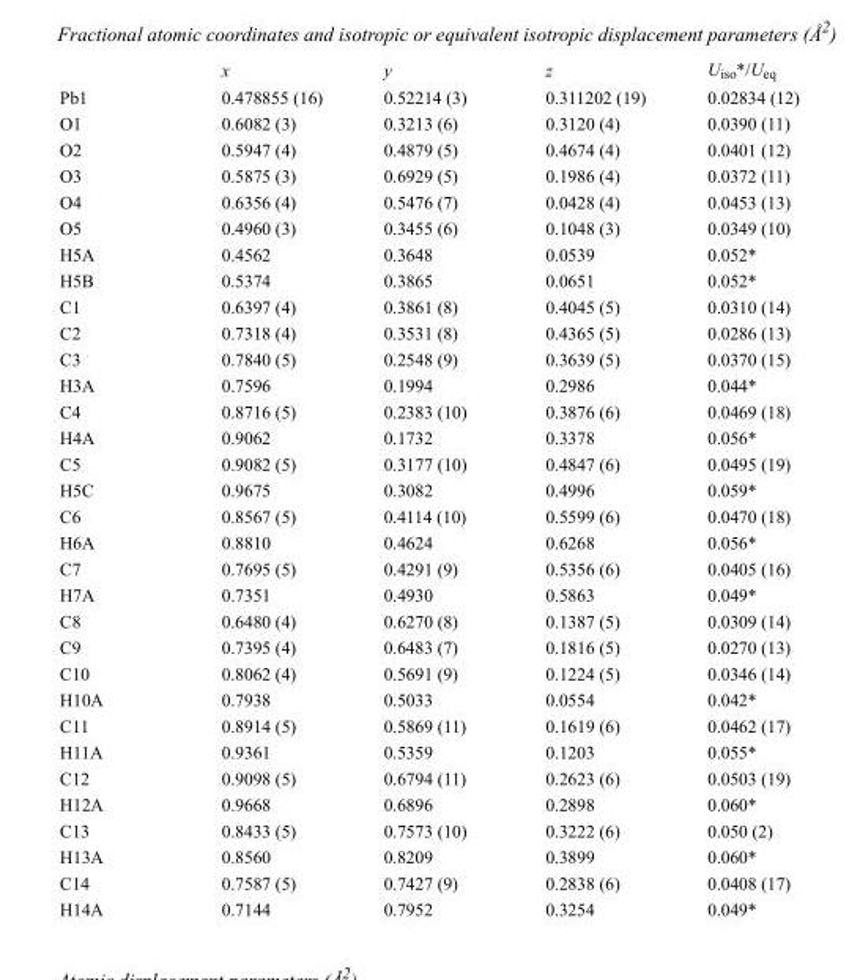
<table><thead><tr><td></td><td>x</td><td>y</td><td>z</td><td>U<sub>iso</sub>*/U<sub>eq</sub></td></tr></thead><tbody><tr><td>Pb1</td><td>0.478855 (16)</td><td>0.52214 (3)</td><td>0.311202 (19)</td><td>0.02834 (12)</td></tr><tr><td>O1</td><td>0.6082 (3)</td><td>0.3213 (6)</td><td>0.3120 (4)</td><td>0.0390 (11)</td></tr><tr><td>O2</td><td>0.5947 (4)</td><td>0.4879 (5)</td><td>0.4674 (4)</td><td>0.0401 (12)</td></tr><tr><td>O3</td><td>0.5875 (3)</td><td>0.6929 (5)</td><td>0.1986 (4)</td><td>0.0372 (11)</td></tr><tr><td>O4</td><td>0.6356 (4)</td><td>0.5476 (7)</td><td>0.0428 (4)</td><td>0.0453 (13)</td></tr><tr><td>O5</td><td>0.4960 (3)</td><td>0.3455 (6)</td><td>0.1048 (3)</td><td>0.0349 (10)</td></tr><tr><td>H5A</td><td>0.4562</td><td>0.3648</td><td>0.0539</td><td>0.052*</td></tr><tr><td>H5B</td><td>0.5374</td><td>0.3865</td><td>0.0651</td><td>0.052*</td></tr><tr><td>C1</td><td>0.6397 (4)</td><td>0.3861 (8)</td><td>0.4045 (5)</td><td>0.0310 (14)</td></tr><tr><td>C2</td><td>0.7318 (4)</td><td>0.3531 (8)</td><td>0.4365 (5)</td><td>0.0286 (13)</td></tr><tr><td>C3</td><td>0.7840 (5)</td><td>0.2548 (9)</td><td>0.3639 (5)</td><td>0.0370 (15)</td></tr><tr><td>H3A</td><td>0.7596</td><td>0.1994</td><td>0.2986</td><td>0.044*</td></tr><tr><td>C4</td><td>0.8716 (5)</td><td>0.2383 (10)</td><td>0.3876 (6)</td><td>0.0469 (18)</td></tr><tr><td>H4A</td><td>0.9062</td><td>0.1732</td><td>0.3378</td><td>0.056*</td></tr><tr><td>C5</td><td>0.9082 (5)</td><td>0.3177 (10)</td><td>0.4847 (6)</td><td>0.0495 (19)</td></tr><tr><td>H5C</td><td>0.9675</td><td>0.3082</td><td>0.4996</td><td>0.059*</td></tr><tr><td>C6</td><td>0.8567 (5)</td><td>0.4114 (10)</td><td>0.5599 (6)</td><td>0.0470 (18)</td></tr><tr><td>H6A</td><td>0.8810</td><td>0.4624</td><td>0.6268</td><td>0.056*</td></tr><tr><td>C7</td><td>0.7695 (5)</td><td>0.4291 (9)</td><td>0.5356 (6)</td><td>0.0405 (16)</td></tr><tr><td>H7A</td><td>0.7351</td><td>0.4930</td><td>0.5863</td><td>0.049*</td></tr><tr><td>C8</td><td>0.6480 (4)</td><td>0.6270 (8)</td><td>0.1387 (5)</td><td>0.0309 (14)</td></tr><tr><td>C9</td><td>0.7395 (4)</td><td>0.6483 (7)</td><td>0.1816 (5)</td><td>0.0270 (13)</td></tr><tr><td>C10</td><td>0.8062 (4)</td><td>0.5691 (9)</td><td>0.1224 (5)</td><td>0.0346 (14)</td></tr><tr><td>H10A</td><td>0.7938</td><td>0.5033</td><td>0.0554</td><td>0.042*</td></tr><tr><td>C11</td><td>0.8914 (5)</td><td>0.5869 (11)</td><td>0.1619 (6)</td><td>0.0462 (17)</td></tr><tr><td>H11A</td><td>0.9361</td><td>0.5359</td><td>0.1203</td><td>0.055*</td></tr><tr><td>C12</td><td>0.9098 (5)</td><td>0.6794 (11)</td><td>0.2623 (6)</td><td>0.0503 (19)</td></tr><tr><td>H12A</td><td>0.9668</td><td>0.6896</td><td>0.2898</td><td>0.060*</td></tr><tr><td>C13</td><td>0.8433 (5)</td><td>0.7573 (10)</td><td>0.3222 (6)</td><td>0.050 (2)</td></tr><tr><td>H13A</td><td>0.8560</td><td>0.8209</td><td>0.3899</td><td>0.060*</td></tr><tr><td>C14</td><td>0.7587 (5)</td><td>0.7427 (9)</td><td>0.2838 (6)</td><td>0.0408 (17)</td></tr><tr><td>H14A</td><td>0.7144</td><td>0.7952</td><td>0.3254</td><td>0.049*</td></tr></tbody></table>